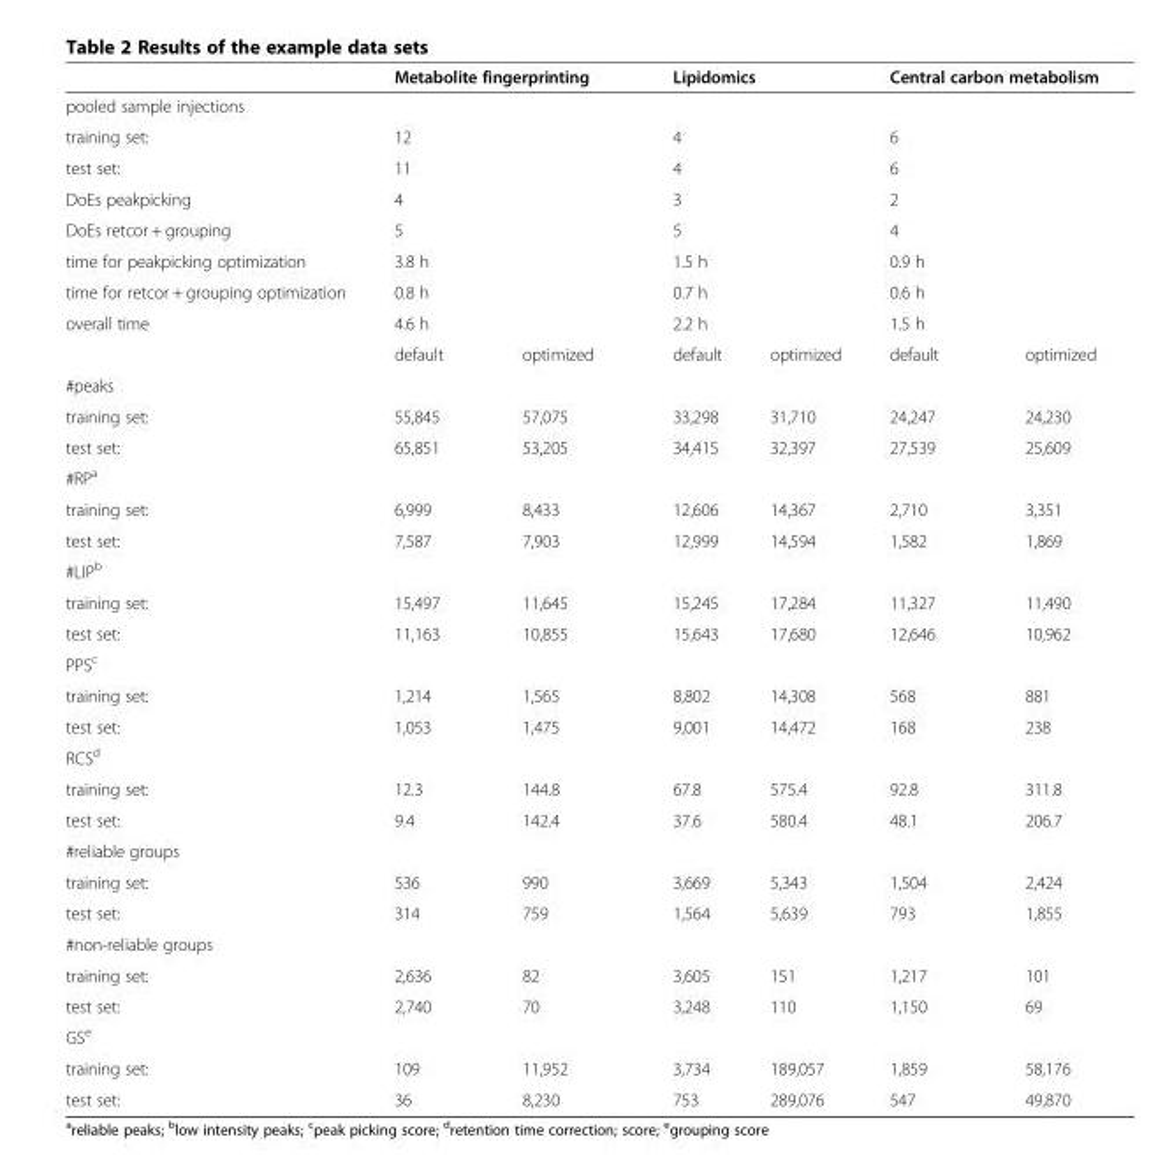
<table><thead><tr><td></td><td colspan="2">Metabolite fingerprinting</td><td colspan="2">Lipidomics</td><td colspan="2">Central carbon metabolism</td></tr></thead><tbody><tr><td colspan="7">pooled sample injections</td></tr><tr><td>training set:</td><td colspan="2">12</td><td colspan="2">4</td><td colspan="2">6</td></tr><tr><td>test set:</td><td colspan="2">11</td><td colspan="2">4</td><td colspan="2">6</td></tr><tr><td>DoEs peakpicking</td><td colspan="2">4</td><td colspan="2">3</td><td colspan="2">2</td></tr><tr><td>DoEs retcor + grouping</td><td colspan="2">5</td><td colspan="2">5</td><td colspan="2">4</td></tr><tr><td>time for peakpicking optimization</td><td colspan="2">3.8 h</td><td colspan="2">1.5 h</td><td colspan="2">0.9 h</td></tr><tr><td>time for retcor + grouping optimization</td><td colspan="2">0.8 h</td><td colspan="2">0.7 h</td><td colspan="2">0.6 h</td></tr><tr><td rowspan="2">overall time</td><td colspan="2">4.6 h</td><td colspan="2">2.2 h</td><td colspan="2">1.5 h</td></tr><tr><td>default</td><td>optimized</td><td>default</td><td>optimized</td><td>default</td><td>optimized</td></tr><tr><td colspan="7">#peaks</td></tr><tr><td>training set:</td><td>55,845</td><td>57,075</td><td>33,298</td><td>31,710</td><td>24,247</td><td>24,230</td></tr><tr><td>test set:</td><td>65,851</td><td>53,205</td><td>34,415</td><td>32,397</td><td>27,539</td><td>25,609</td></tr><tr><td colspan="7">#RP<sup>a</sup></td></tr><tr><td>training set:</td><td>6,999</td><td>8,433</td><td>12,606</td><td>14,367</td><td>2,710</td><td>3,351</td></tr><tr><td>test set:</td><td>7,587</td><td>7,903</td><td>12,999</td><td>14,594</td><td>1,582</td><td>1,869</td></tr><tr><td colspan="7">#LIP<sup>b</sup></td></tr><tr><td>training set:</td><td>15,497</td><td>11,645</td><td>15,245</td><td>17,284</td><td>11,327</td><td>11,490</td></tr><tr><td>test set:</td><td>11,163</td><td>10,855</td><td>15,643</td><td>17,680</td><td>12,646</td><td>10,962</td></tr><tr><td colspan="7">PPS<sup>c</sup></td></tr><tr><td>training set:</td><td>1,214</td><td>1,565</td><td>8,802</td><td>14,308</td><td>568</td><td>881</td></tr><tr><td>test set:</td><td>1,053</td><td>1,475</td><td>9,001</td><td>14,472</td><td>168</td><td>238</td></tr><tr><td colspan="7">RCS<sup>d</sup></td></tr><tr><td>training set:</td><td>12.3</td><td>144.8</td><td>67.8</td><td>575.4</td><td>92.8</td><td>311.8</td></tr><tr><td>test set:</td><td>9.4</td><td>142.4</td><td>37.6</td><td>580.4</td><td>48.1</td><td>206.7</td></tr><tr><td colspan="7">#reliable groups</td></tr><tr><td>training set:</td><td>536</td><td>990</td><td>3,669</td><td>5,343</td><td>1,504</td><td>2,424</td></tr><tr><td>test set:</td><td>314</td><td>759</td><td>1,564</td><td>5,639</td><td>793</td><td>1,855</td></tr><tr><td colspan="7">#non-reliable groups</td></tr><tr><td>training set:</td><td>2,636</td><td>82</td><td>3,605</td><td>151</td><td>1,217</td><td>101</td></tr><tr><td>test set:</td><td>2,740</td><td>70</td><td>3,248</td><td>110</td><td>1,150</td><td>69</td></tr><tr><td colspan="7">GS<sup>e</sup></td></tr><tr><td>training set:</td><td>109</td><td>11,952</td><td>3,734</td><td>189,057</td><td>1,859</td><td>58,176</td></tr><tr><td>test set:</td><td>36</td><td>8,230</td><td>753</td><td>289,076</td><td>547</td><td>49,870</td></tr></tbody></table>